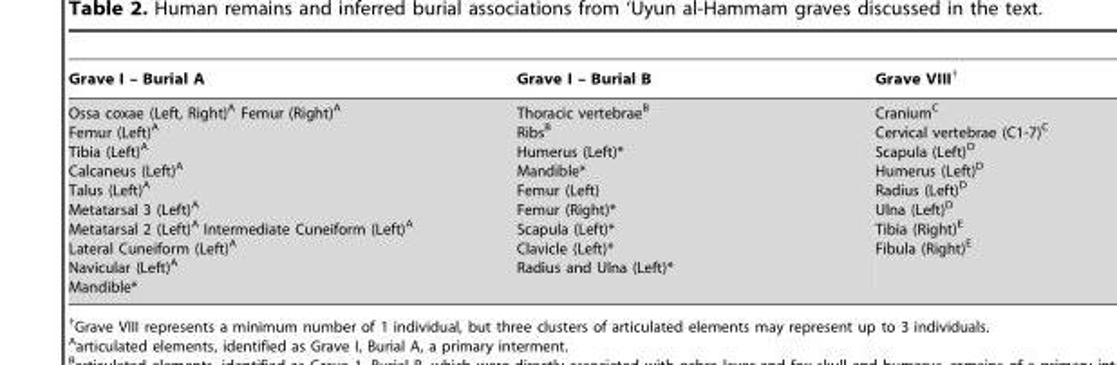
<table><thead><tr><td>Grave I – Burial A</td><td>Grave I – Burial B</td><td>Grave VIII†</td></tr></thead><tbody><tr><td>Ossa coxae (Left, Right)<sup>A</sup> Femur (Right)<sup>A</sup> Femur (Left)<sup>A</sup> Tibia (Left)<sup>A</sup> Calcaneus (Left)<sup>A</sup> Talus (Left)<sup>A</sup> Metatarsal 3 (Left)<sup>A</sup> Metatarsal 2 (Left)<sup>A</sup> Intermediate Cuneiform (Left)<sup>A</sup> Lateral Cuneiform (Left)<sup>A</sup> Navicular (Left)<sup>A</sup> Mandible*</td><td>Thoracic vertebrae<sup>B</sup> Ribs<sup>B</sup> Humerus (Left)* Mandible* Femur (Left) Femur (Right)* Scapula (Left)* Clavicle (Left)* Radius and Ulna (Left)*</td><td>Cranium<sup>C</sup> Cervical vertebrae (C1-7)<sup>C</sup> Scapula (Left)<sup>D</sup> Humerus (Left)<sup>D</sup> Radius (Left)<sup>D</sup> Ulna (Left)<sup>D</sup> Tibia (Right)<sup>E</sup> Fibula (Right)<sup>E</sup></td></tr></tbody></table>